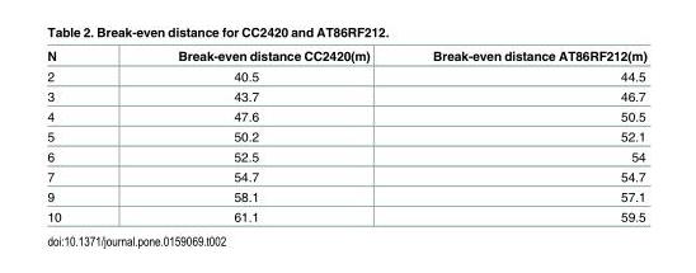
<table><thead><tr><td>N</td><td>Break-even distance CC2420(m)</td><td>Break-even distance AT86RF212(m)</td></tr></thead><tbody><tr><td>2</td><td>40.5</td><td>44.5</td></tr><tr><td>3</td><td>43.7</td><td>46.7</td></tr><tr><td>4</td><td>47.6</td><td>50.5</td></tr><tr><td>5</td><td>50.2</td><td>52.1</td></tr><tr><td>6</td><td>52.5</td><td>54</td></tr><tr><td>7</td><td>54.7</td><td>54.7</td></tr><tr><td>9</td><td>58.1</td><td>57.1</td></tr><tr><td>10</td><td>61.1</td><td>59.5</td></tr></tbody></table>